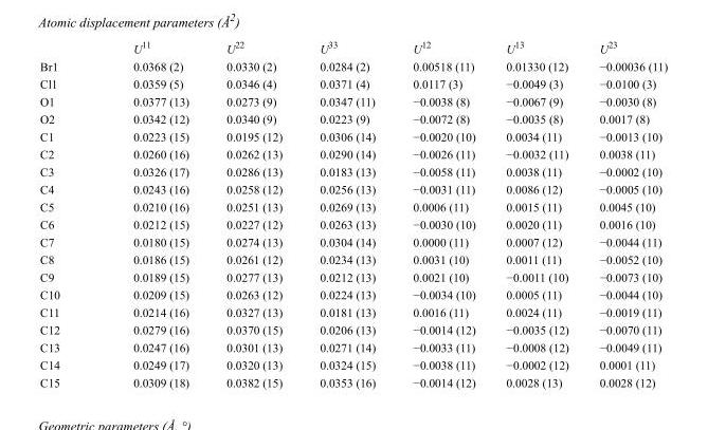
<table><thead><tr><td></td><td>U<sup>11</sup></td><td>U<sup>22</sup></td><td>U<sup>33</sup></td><td>U<sup>12</sup></td><td>U<sup>13</sup></td><td>U<sup>23</sup></td></tr></thead><tbody><tr><td>Br1</td><td>0.0368 (2)</td><td>0.0330 (2)</td><td>0.0284 (2)</td><td>0.00518 (11)</td><td>0.01330 (12)</td><td>−0.00036 (11)</td></tr><tr><td>Cl1</td><td>0.0359 (5)</td><td>0.0346 (4)</td><td>0.0371 (4)</td><td>0.0117 (3)</td><td>−0.0049 (3)</td><td>−0.0100 (3)</td></tr><tr><td>O1</td><td>0.0377 (13)</td><td>0.0273 (9)</td><td>0.0347 (11)</td><td>−0.0038 (8)</td><td>−0.0067 (9)</td><td>−0.0030 (8)</td></tr><tr><td>O2</td><td>0.0342 (12)</td><td>0.0340 (9)</td><td>0.0223 (9)</td><td>−0.0072 (8)</td><td>−0.0035 (8)</td><td>0.0017 (8)</td></tr><tr><td>C1</td><td>0.0223 (15)</td><td>0.0195 (12)</td><td>0.0306 (14)</td><td>−0.0020 (10)</td><td>0.0034 (11)</td><td>−0.0013 (10)</td></tr><tr><td>C2</td><td>0.0260 (16)</td><td>0.0262 (13)</td><td>0.0290 (14)</td><td>−0.0026 (11)</td><td>−0.0032 (11)</td><td>0.0038 (11)</td></tr><tr><td>C3</td><td>0.0326 (17)</td><td>0.0286 (13)</td><td>0.0183 (13)</td><td>−0.0058 (11)</td><td>0.0038 (11)</td><td>−0.0002 (10)</td></tr><tr><td>C4</td><td>0.0243 (16)</td><td>0.0258 (12)</td><td>0.0256 (13)</td><td>−0.0031 (11)</td><td>0.0086 (12)</td><td>−0.0005 (10)</td></tr><tr><td>C5</td><td>0.0210 (16)</td><td>0.0251 (13)</td><td>0.0269 (13)</td><td>0.0006 (11)</td><td>0.0015 (11)</td><td>0.0045 (10)</td></tr><tr><td>C6</td><td>0.0212 (15)</td><td>0.0227 (12)</td><td>0.0263 (13)</td><td>−0.0030 (10)</td><td>0.0020 (11)</td><td>0.0016 (10)</td></tr><tr><td>C7</td><td>0.0180 (15)</td><td>0.0274 (13)</td><td>0.0304 (14)</td><td>0.0000 (11)</td><td>0.0007 (12)</td><td>−0.0044 (11)</td></tr><tr><td>C8</td><td>0.0186 (15)</td><td>0.0261 (12)</td><td>0.0234 (13)</td><td>0.0031 (10)</td><td>0.0011 (11)</td><td>−0.0052 (10)</td></tr><tr><td>C9</td><td>0.0189 (15)</td><td>0.0277 (13)</td><td>0.0212 (13)</td><td>0.0021 (10)</td><td>−0.0011 (10)</td><td>−0.0073 (10)</td></tr><tr><td>C10</td><td>0.0209 (15)</td><td>0.0263 (12)</td><td>0.0224 (13)</td><td>−0.0034 (10)</td><td>0.0005 (11)</td><td>−0.0044 (10)</td></tr><tr><td>C11</td><td>0.0214 (16)</td><td>0.0327 (13)</td><td>0.0181 (13)</td><td>0.0016 (11)</td><td>0.0024 (11)</td><td>−0.0019 (11)</td></tr><tr><td>C12</td><td>0.0279 (16)</td><td>0.0370 (15)</td><td>0.0206 (13)</td><td>−0.0014 (12)</td><td>−0.0035 (12)</td><td>−0.0070 (11)</td></tr><tr><td>C13</td><td>0.0247 (16)</td><td>0.0301 (13)</td><td>0.0271 (14)</td><td>−0.0033 (11)</td><td>−0.0008 (12)</td><td>−0.0049 (11)</td></tr><tr><td>C14</td><td>0.0249 (17)</td><td>0.0320 (13)</td><td>0.0324 (15)</td><td>−0.0038 (11)</td><td>−0.0002 (12)</td><td>0.0001 (11)</td></tr><tr><td>C15</td><td>0.0309 (18)</td><td>0.0382 (15)</td><td>0.0353 (16)</td><td>−0.0014 (12)</td><td>0.0028 (13)</td><td>0.0028 (12)</td></tr></tbody></table>